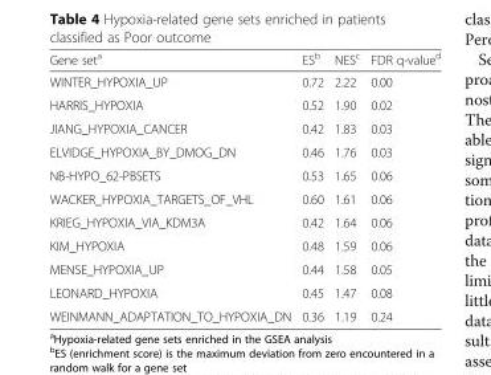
<table><thead><tr><td>Gene set<sup>a</sup></td><td>ES<sup>b</sup></td><td>NES<sup>c</sup></td><td>FDR q-value<sup>d</sup></td></tr></thead><tbody><tr><td>WINTER_HYPOXIA_UP</td><td>0.72</td><td>2.22</td><td>0.00</td></tr><tr><td>HARRIS_HYPOXIA</td><td>0.52</td><td>1.90</td><td>0.02</td></tr><tr><td>JIANG_HYPOXIA_CANCER</td><td>0.42</td><td>1.83</td><td>0.03</td></tr><tr><td>ELVIDGE_HYPOXIA_BY_DMOG_DN</td><td>0.46</td><td>1.76</td><td>0.03</td></tr><tr><td>NB-HYPO_62-PBSETS</td><td>0.53</td><td>1.65</td><td>0.06</td></tr><tr><td>WACKER_HYPOXIA_TARGETS_OF_VHL</td><td>0.60</td><td>1.61</td><td>0.06</td></tr><tr><td>KRIEG_HYPOXIA_VIA_KDM3A</td><td>0.42</td><td>1.64</td><td>0.06</td></tr><tr><td>KIM_HYPOXIA</td><td>0.48</td><td>1.59</td><td>0.06</td></tr><tr><td>MENSE_HYPOXIA_UP</td><td>0.44</td><td>1.58</td><td>0.05</td></tr><tr><td>LEONARD_HYPOXIA</td><td>0.45</td><td>1.47</td><td>0.08</td></tr><tr><td>WEINMANN_ADAPTATION_TO_HYPOXIA_DN</td><td>0.36</td><td>1.19</td><td>0.24</td></tr></tbody></table>